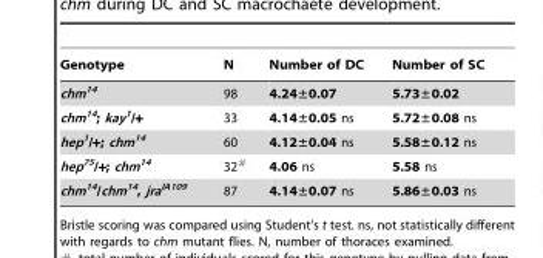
<table><thead><tr><td>Genotype</td><td>N</td><td>Number of DC</td><td>Number of SC</td></tr></thead><tbody><tr><td>chm<sup>14</sup></td><td>98</td><td>4.24±0.07</td><td>5.73±0.02</td></tr><tr><td>chm<sup>14</sup>; kay<sup>1</sup>/+</td><td>33</td><td>4.14±0.05 ns</td><td>5.72±0.08 ns</td></tr><tr><td>hep<sup>1</sup>/+; chm<sup>14</sup></td><td>60</td><td>4.12±0.04 ns</td><td>5.58±0.12 ns</td></tr><tr><td>hep<sup>75</sup>/+; chm<sup>14</sup></td><td>32#</td><td>4.06 ns</td><td>5.58 ns</td></tr><tr><td>chm<sup>14</sup>/chm<sup>14</sup>, jra<sup>IA109</sup></td><td>87</td><td>4.14±0.07 ns</td><td>5.86±0.03 ns</td></tr></tbody></table>